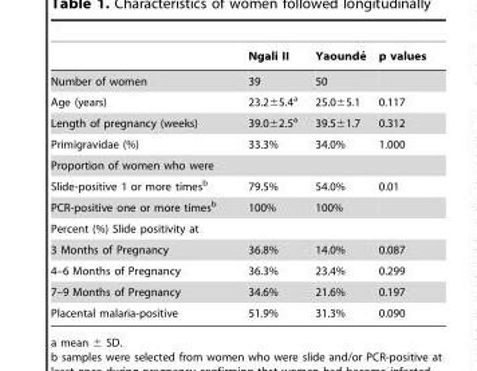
<table><thead><tr><td></td><td>Ngali II</td><td>Yaounde´</td><td>p values</td></tr></thead><tbody><tr><td>Number of women</td><td>39</td><td>50</td><td></td></tr><tr><td>Age (years)</td><td>23.2±5.4<sup>a</sup></td><td>25.0±5.1</td><td>0.117</td></tr><tr><td>Length of pregnancy (weeks)</td><td>39.0±2.5<sup>a</sup></td><td>39.5±1.7</td><td>0.312</td></tr><tr><td>Primigravidae (%)</td><td>33.3%</td><td>34.0%</td><td>1.000</td></tr><tr><td colspan="4">Proportion of women who were</td></tr><tr><td>Slide-positive 1 or more times<sup>b</sup></td><td>79.5%</td><td>54.0%</td><td>0.01</td></tr><tr><td>PCR-positive one or more times<sup>b</sup></td><td>100%</td><td>100%</td><td></td></tr><tr><td colspan="4">Percent (%) Slide positivity at</td></tr><tr><td>3 Months of Pregnancy</td><td>36.8%</td><td>14.0%</td><td>0.087</td></tr><tr><td>4–6 Months of Pregnancy</td><td>36.3%</td><td>23.4%</td><td>0.299</td></tr><tr><td>7–9 Months of Pregnancy</td><td>34.6%</td><td>21.6%</td><td>0.197</td></tr><tr><td>Placental malaria-positive</td><td>51.9%</td><td>31.3%</td><td>0.090</td></tr></tbody></table>